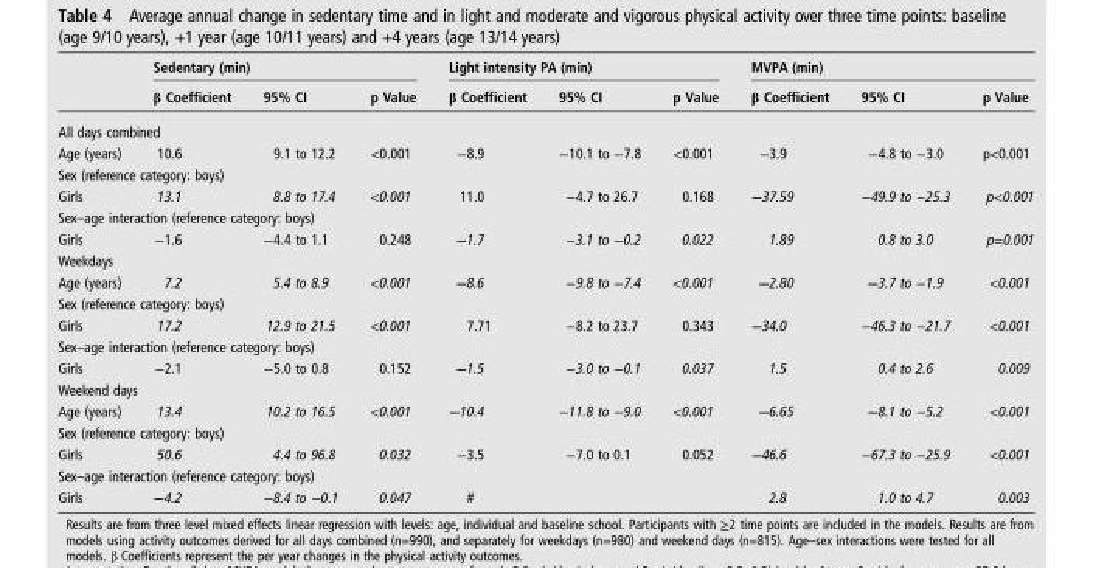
<table><thead><tr><td rowspan="2"></td><td colspan="3">Sedentary (min)</td><td colspan="3">Light intensity PA (min)</td><td colspan="3">MVPA (min)</td></tr><tr><td>β Coefficient</td><td>95% CI</td><td>p Value</td><td>β Coefficient</td><td>95% CI</td><td>p Value</td><td>β Coefficient</td><td>95% CI</td><td>p Value</td></tr></thead><tbody><tr><td colspan="10">All days combined</td></tr><tr><td>Age (years)</td><td>10.6</td><td>9.1 to 12.2</td><td>&lt;0.001</td><td>−8.9</td><td>−10.1 to −7.8</td><td>&lt;0.001</td><td>−3.9</td><td>−4.8 to −3.0</td><td>p&lt;0.001</td></tr><tr><td colspan="10">Sex (reference category: boys)</td></tr><tr><td>Girls</td><td>13.1</td><td>8.8 to 17.4</td><td>&lt;0.001</td><td>11.0</td><td>−4.7 to 26.7</td><td>0.168</td><td>−37.59</td><td>−49.9 to −25.3</td><td>p&lt;0.001</td></tr><tr><td colspan="10">Sex–age interaction (reference category: boys)</td></tr><tr><td>Girls</td><td>−1.6</td><td>−4.4 to 1.1</td><td>0.248</td><td>−1.7</td><td>−3.1 to −0.2</td><td>0.022</td><td>1.89</td><td>0.8 to 3.0</td><td>p=0.001</td></tr><tr><td colspan="10">Weekdays</td></tr><tr><td>Age (years)</td><td>7.2</td><td>5.4 to 8.9</td><td>&lt;0.001</td><td>−8.6</td><td>−9.8 to −7.4</td><td>&lt;0.001</td><td>−2.80</td><td>−3.7 to −1.9</td><td>&lt;0.001</td></tr><tr><td colspan="10">Sex (reference category: boys)</td></tr><tr><td>Girls</td><td>17.2</td><td>12.9 to 21.5</td><td>&lt;0.001</td><td>7.71</td><td>−8.2 to 23.7</td><td>0.343</td><td>−34.0</td><td>−46.3 to −21.7</td><td>&lt;0.001</td></tr><tr><td colspan="10">Sex–age interaction (reference category: boys)</td></tr><tr><td>Girls</td><td>−2.1</td><td>−5.0 to 0.8</td><td>0.152</td><td>−1.5</td><td>−3.0 to −0.1</td><td>0.037</td><td>1.5</td><td>0.4 to 2.6</td><td>0.009</td></tr><tr><td colspan="10">Weekend days</td></tr><tr><td>Age (years)</td><td>13.4</td><td>10.2 to 16.5</td><td>&lt;0.001</td><td>−10.4</td><td>−11.8 to −9.0</td><td>&lt;0.001</td><td>−6.65</td><td>−8.1 to −5.2</td><td>&lt;0.001</td></tr><tr><td colspan="10">Sex (reference category: boys)</td></tr><tr><td>Girls</td><td>50.6</td><td>4.4 to 96.8</td><td>0.032</td><td>−3.5</td><td>−7.0 to 0.1</td><td>0.052</td><td>−46.6</td><td>−67.3 to −25.9</td><td>&lt;0.001</td></tr><tr><td colspan="10">Sex–age interaction (reference category: boys)</td></tr><tr><td>Girls</td><td>−4.2</td><td>−8.4 to −0.1</td><td>0.047</td><td>#</td><td></td><td></td><td>2.8</td><td>1.0 to 4.7</td><td>0.003</td></tr></tbody></table>